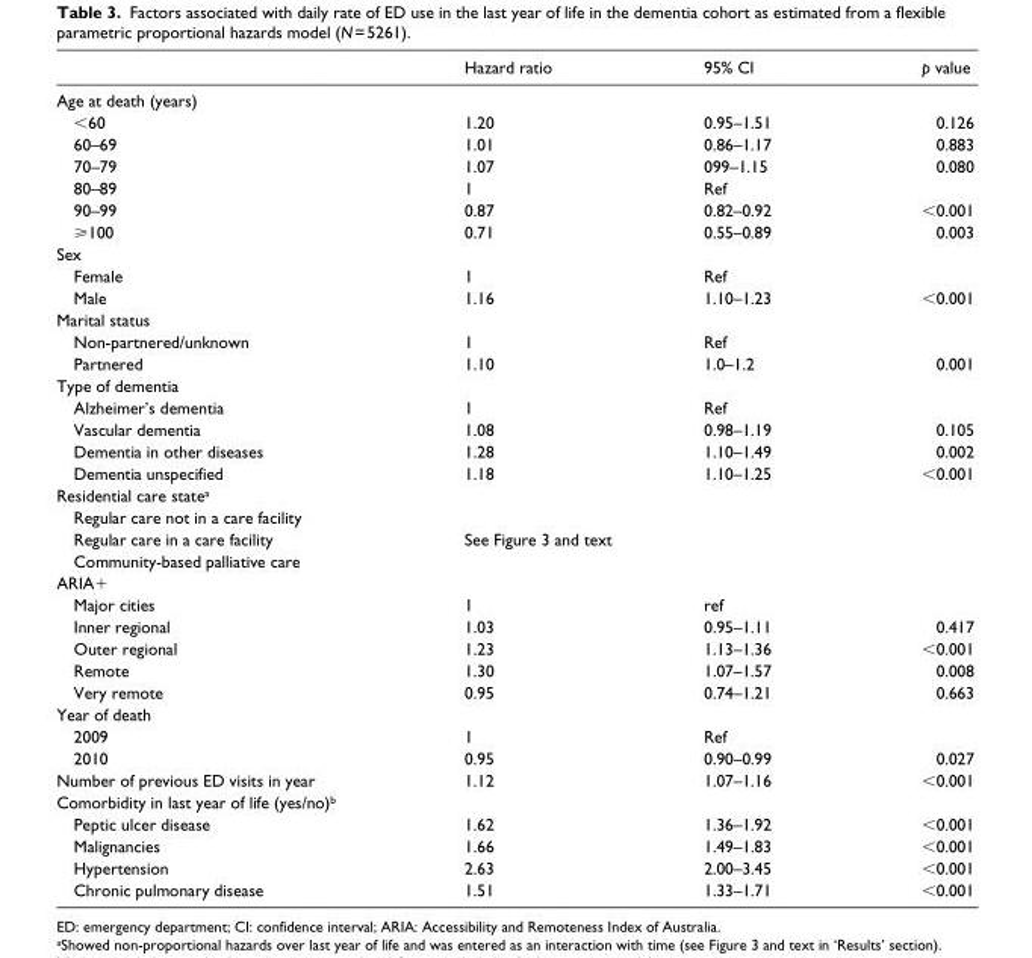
<table><thead><tr><td></td><td>Hazard ratio</td><td>95% CI</td><td>p value</td></tr></thead><tbody><tr><td colspan="4">Age at death (years)</td></tr><tr><td>&lt;60</td><td>1.20</td><td>0.95–1.51</td><td>0.126</td></tr><tr><td>60–69</td><td>1.01</td><td>0.86–1.17</td><td>0.883</td></tr><tr><td>70–79</td><td>1.07</td><td>099–1.15</td><td>0.080</td></tr><tr><td>80–89</td><td>1</td><td>Ref</td><td></td></tr><tr><td>90–99</td><td>0.87</td><td>0.82–0.92</td><td>&lt;0.001</td></tr><tr><td>⩾100</td><td>0.71</td><td>0.55–0.89</td><td>0.003</td></tr><tr><td colspan="4">Sex</td></tr><tr><td>Female</td><td>1</td><td>Ref</td><td></td></tr><tr><td>Male</td><td>1.16</td><td>1.10–1.23</td><td>&lt;0.001</td></tr><tr><td colspan="4">Marital status</td></tr><tr><td>Non-partnered/unknown</td><td>1</td><td>Ref</td><td></td></tr><tr><td>Partnered</td><td>1.10</td><td>1.0–1.2</td><td>0.001</td></tr><tr><td colspan="4">Type of dementia</td></tr><tr><td>Alzheimer’s dementia</td><td>1</td><td>Ref</td><td></td></tr><tr><td>Vascular dementia</td><td>1.08</td><td>0.98–1.19</td><td>0.105</td></tr><tr><td>Dementia in other diseases</td><td>1.28</td><td>1.10–1.49</td><td>0.002</td></tr><tr><td>Dementia unspecified</td><td>1.18</td><td>1.10–1.25</td><td>&lt;0.001</td></tr><tr><td colspan="4">Residential care state<sup>a</sup></td></tr><tr><td colspan="4">Regular care not in a care facility</td></tr><tr><td>Regular care in a care facility</td><td colspan="3">See Figure 3 and text</td></tr><tr><td colspan="4">Community-based palliative care</td></tr><tr><td colspan="4">ARIA+</td></tr><tr><td>Major cities</td><td>1</td><td>ref</td><td></td></tr><tr><td>Inner regional</td><td>1.03</td><td>0.95–1.11</td><td>0.417</td></tr><tr><td>Outer regional</td><td>1.23</td><td>1.13–1.36</td><td>&lt;0.001</td></tr><tr><td>Remote</td><td>1.30</td><td>1.07–1.57</td><td>0.008</td></tr><tr><td>Very remote</td><td>0.95</td><td>0.74–1.21</td><td>0.663</td></tr><tr><td colspan="4">Year of death</td></tr><tr><td>2009</td><td>1</td><td>Ref</td><td></td></tr><tr><td>2010</td><td>0.95</td><td>0.90–0.99</td><td>0.027</td></tr><tr><td>Number of previous ED visits in year</td><td>1.12</td><td>1.07–1.16</td><td>&lt;0.001</td></tr><tr><td colspan="4">Comorbidity in last year of life (yes/no)<sup>b</sup></td></tr><tr><td>Peptic ulcer disease</td><td>1.62</td><td>1.36–1.92</td><td>&lt;0.001</td></tr><tr><td>Malignancies</td><td>1.66</td><td>1.49–1.83</td><td>&lt;0.001</td></tr><tr><td>Hypertension</td><td>2.63</td><td>2.00–3.45</td><td>&lt;0.001</td></tr><tr><td>Chronic pulmonary disease</td><td>1.51</td><td>1.33–1.71</td><td>&lt;0.001</td></tr></tbody></table>